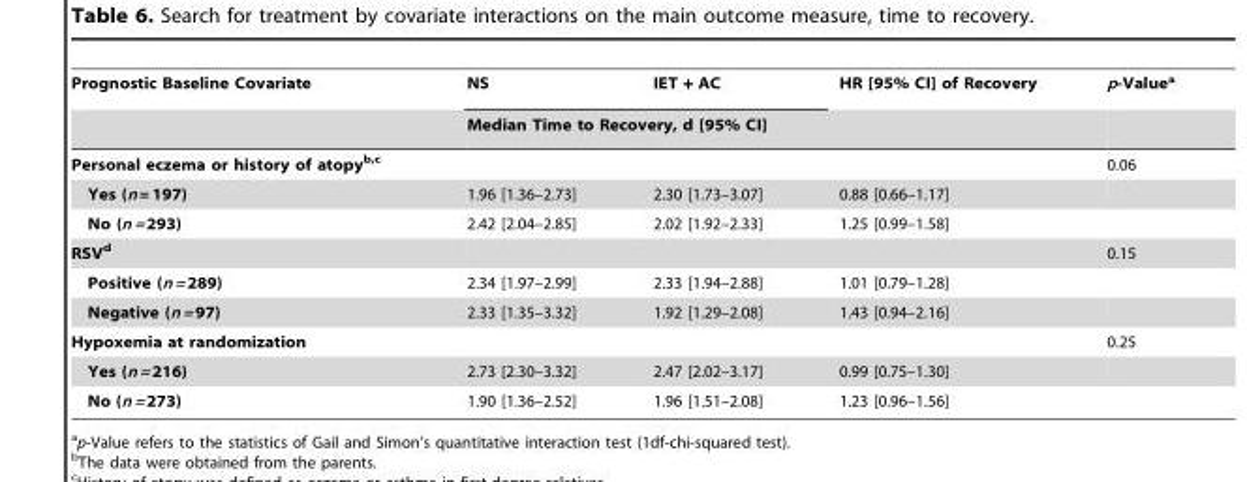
<table><thead><tr><td rowspan="2">Prognostic Baseline Covariate</td><td>NS</td><td>IET + AC</td><td rowspan="2">HR [95% CI] of Recovery</td><td rowspan="2">p-Value<sup>a</sup></td></tr><tr><td colspan="2">Median Time to Recovery, d [95% CI]</td></tr></thead><tbody><tr><td>Personal eczema or history of atopyb,c</td><td></td><td></td><td></td><td>0.06</td></tr><tr><td>Yes (n = 197)</td><td>1.96 [1.36–2.73]</td><td>2.30 [1.73–3.07]</td><td>0.88 [0.66–1.17]</td><td></td></tr><tr><td>No (n = 293)</td><td>2.42 [2.04–2.85]</td><td>2.02 [1.92–2.33]</td><td>1.25 [0.99–1.58]</td><td></td></tr><tr><td>RSVd</td><td></td><td></td><td></td><td>0.15</td></tr><tr><td>Positive (n = 289)</td><td>2.34 [1.97–2.99]</td><td>2.33 [1.94–2.88]</td><td>1.01 [0.79–1.28]</td><td></td></tr><tr><td>Negative (n = 97)</td><td>2.33 [1.35–3.32]</td><td>1.92 [1.29–2.08]</td><td>1.43 [0.94–2.16]</td><td></td></tr><tr><td>Hypoxemia at randomization</td><td></td><td></td><td></td><td>0.25</td></tr><tr><td>Yes (n = 216)</td><td>2.73 [2.30–3.32]</td><td>2.47 [2.02–3.17]</td><td>0.99 [0.75–1.30]</td><td></td></tr><tr><td>No (n = 273)</td><td>1.90 [1.36–2.52]</td><td>1.96 [1.51–2.08]</td><td>1.23 [0.96–1.56]</td><td></td></tr></tbody></table>